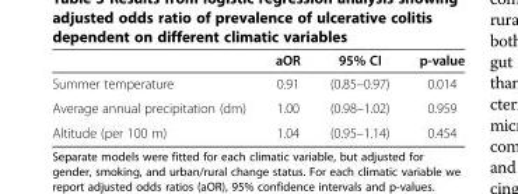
<table><thead><tr><td></td><td>aOR</td><td>95% CI</td><td>p-value</td></tr></thead><tbody><tr><td>Summer temperature</td><td>0.91</td><td>(0.85–0.97)</td><td>0.014</td></tr><tr><td>Average annual precipitation (dm)</td><td>1.00</td><td>(0.98–1.02)</td><td>0.959</td></tr><tr><td>Altitude (per 100 m)</td><td>1.04</td><td>(0.95–1.14)</td><td>0.454</td></tr></tbody></table>